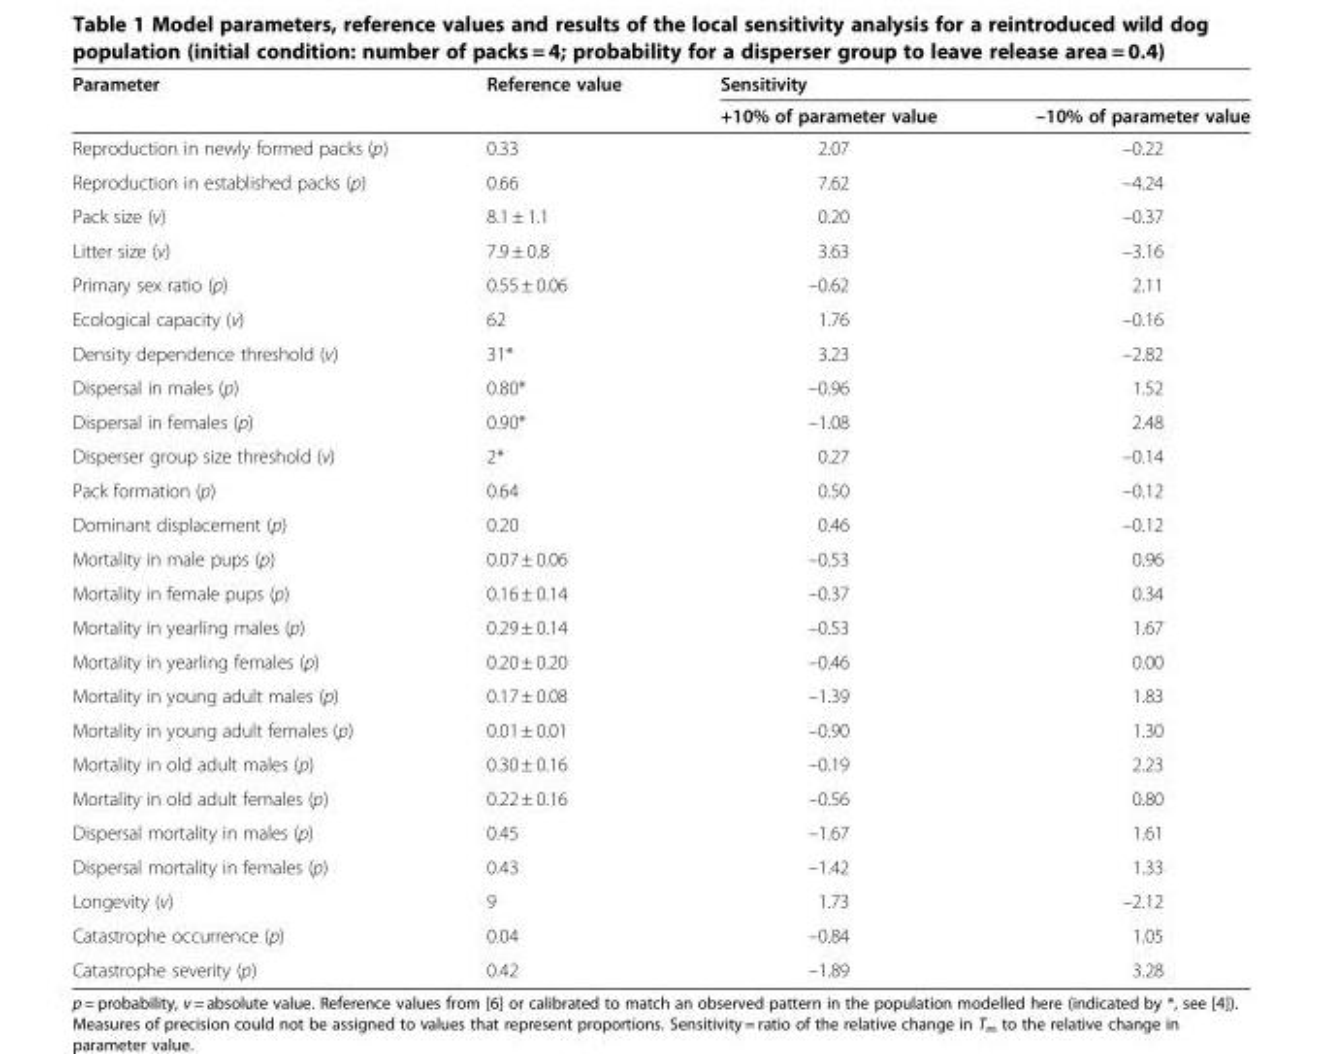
<table><thead><tr><td rowspan="2">Parameter</td><td rowspan="2">Reference value</td><td colspan="2">Sensitivity</td></tr><tr><td>+10% of parameter value</td><td>–10% of parameter value</td></tr></thead><tbody><tr><td>Reproduction in newly formed packs (p)</td><td>0.33</td><td>2.07</td><td>–0.22</td></tr><tr><td>Reproduction in established packs (p)</td><td>0.66</td><td>7.62</td><td>–4.24</td></tr><tr><td>Pack size (v)</td><td>8.1 ± 1.1</td><td>0.20</td><td>–0.37</td></tr><tr><td>Litter size (v)</td><td>7.9 ± 0.8</td><td>3.63</td><td>–3.16</td></tr><tr><td>Primary sex ratio (p)</td><td>0.55 ± 0.06</td><td>–0.62</td><td>2.11</td></tr><tr><td>Ecological capacity (v)</td><td>62</td><td>1.76</td><td>–0.16</td></tr><tr><td>Density dependence threshold (v)</td><td>31*</td><td>3.23</td><td>–2.82</td></tr><tr><td>Dispersal in males (p)</td><td>0.80*</td><td>–0.96</td><td>1.52</td></tr><tr><td>Dispersal in females (p)</td><td>0.90*</td><td>–1.08</td><td>2.48</td></tr><tr><td>Disperser group size threshold (v)</td><td>2*</td><td>0.27</td><td>–0.14</td></tr><tr><td>Pack formation (p)</td><td>0.64</td><td>0.50</td><td>–0.12</td></tr><tr><td>Dominant displacement (p)</td><td>0.20</td><td>0.46</td><td>–0.12</td></tr><tr><td>Mortality in male pups (p)</td><td>0.07 ± 0.06</td><td>–0.53</td><td>0.96</td></tr><tr><td>Mortality in female pups (p)</td><td>0.16 ± 0.14</td><td>–0.37</td><td>0.34</td></tr><tr><td>Mortality in yearling males (p)</td><td>0.29 ± 0.14</td><td>–0.53</td><td>1.67</td></tr><tr><td>Mortality in yearling females (p)</td><td>0.20 ± 0.20</td><td>–0.46</td><td>0.00</td></tr><tr><td>Mortality in young adult males (p)</td><td>0.17 ± 0.08</td><td>–1.39</td><td>1.83</td></tr><tr><td>Mortality in young adult females (p)</td><td>0.01 ± 0.01</td><td>–0.90</td><td>1.30</td></tr><tr><td>Mortality in old adult males (p)</td><td>0.30 ± 0.16</td><td>–0.19</td><td>2.23</td></tr><tr><td>Mortality in old adult females (p)</td><td>0.22 ± 0.16</td><td>–0.56</td><td>0.80</td></tr><tr><td>Dispersal mortality in males (p)</td><td>0.45</td><td>–1.67</td><td>1.61</td></tr><tr><td>Dispersal mortality in females (p)</td><td>0.43</td><td>–1.42</td><td>1.33</td></tr><tr><td>Longevity (v)</td><td>9</td><td>1.73</td><td>–2.12</td></tr><tr><td>Catastrophe occurrence (p)</td><td>0.04</td><td>–0.84</td><td>1.05</td></tr><tr><td>Catastrophe severity (p)</td><td>0.42</td><td>–1.89</td><td>3.28</td></tr></tbody></table>